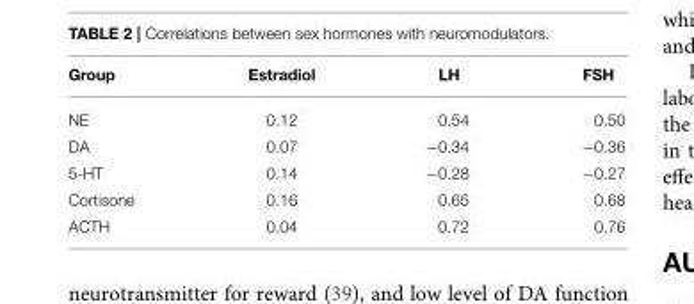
<table><thead><tr><td>Group</td><td>Estradiol</td><td>LH</td><td>FSH</td></tr></thead><tbody><tr><td>NE</td><td>0.12</td><td>0.54</td><td>0.50</td></tr><tr><td>DA</td><td>0.07</td><td>−0.34</td><td>−0.36</td></tr><tr><td>5-HT</td><td>0.14</td><td>−0.28</td><td>−0.27</td></tr><tr><td>Cortisone</td><td>0.16</td><td>0.65</td><td>0.68</td></tr><tr><td>ACTH</td><td>0.04</td><td>0.72</td><td>0.76</td></tr></tbody></table>